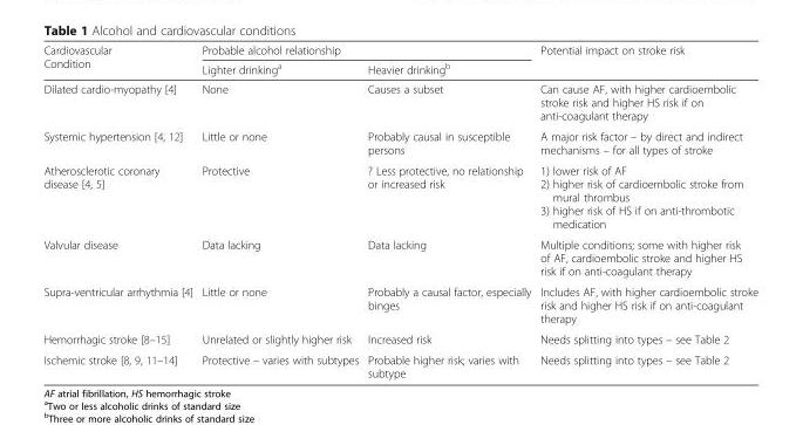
<table><thead><tr><td rowspan="2">Cardiovascular Condition</td><td colspan="2">Probable alcohol relationship</td><td rowspan="2">Potential impact on stroke risk</td></tr><tr><td>Lighter drinking<sup>a</sup></td><td>Heavier drinking<sup>b</sup></td></tr></thead><tbody><tr><td>Dilated cardio-myopathy [4]</td><td>None</td><td>Causes a subset</td><td>Can cause AF, with higher cardioembolic stroke risk and higher HS risk if on anti-coagulant therapy</td></tr><tr><td>Systemic hypertension [4, 12]</td><td>Little or none</td><td>Probably causal in susceptible persons</td><td>A major risk factor – by direct and indirect mechanisms – for all types of stroke</td></tr><tr><td>Atherosclerotic coronary disease [4, 5]</td><td>Protective</td><td>? Less protective, no relationship or increased risk</td><td>1) lower risk of AF 2) higher risk of cardioembolic stroke from mural thrombus 3) higher risk of HS if on anti-thrombotic medication</td></tr><tr><td>Valvular disease</td><td>Data lacking</td><td>Data lacking</td><td>Multiple conditions; some with higher risk of AF, cardioembolic stroke and higher HS risk if on anti-coagulant therapy</td></tr><tr><td>Supra-ventricular arrhythmia [4]</td><td>Little or none</td><td>Probably a causal factor, especially binges</td><td>Includes AF, with higher cardioembolic stroke risk and higher HS risk if on anti-coagulant therapy</td></tr><tr><td>Hemorrhagic stroke [8–15]</td><td>Unrelated or slightly higher risk</td><td>Increased risk</td><td>Needs splitting into types – see Table 2</td></tr><tr><td>Ischemic stroke [8, 9, 11–14]</td><td>Protective – varies with subtypes</td><td>Probable higher risk; varies with subtype</td><td>Needs splitting into types – see Table 2</td></tr></tbody></table>